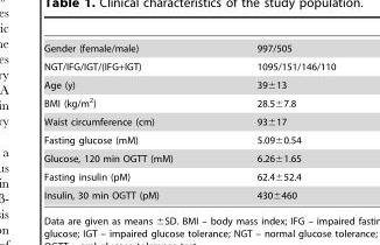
<table><tbody><tr><td>Gender (female/male)</td><td>997/505</td></tr><tr><td>NGT/IFG/IGT/(IFG+IGT)</td><td>1095/151/146/110</td></tr><tr><td>Age (y)</td><td>39±13</td></tr><tr><td>BMI (kg/m<sup>2</sup>)</td><td>28.5±7.8</td></tr><tr><td>Waist circumference (cm)</td><td>93±17</td></tr><tr><td>Fasting glucose (mM)</td><td>5.09±0.54</td></tr><tr><td>Glucose, 120 min OGTT (mM)</td><td>6.26±1.65</td></tr><tr><td>Fasting insulin (pM)</td><td>62.4±52.4</td></tr><tr><td>Insulin, 30 min OGTT (pM)</td><td>430±460</td></tr></tbody></table>